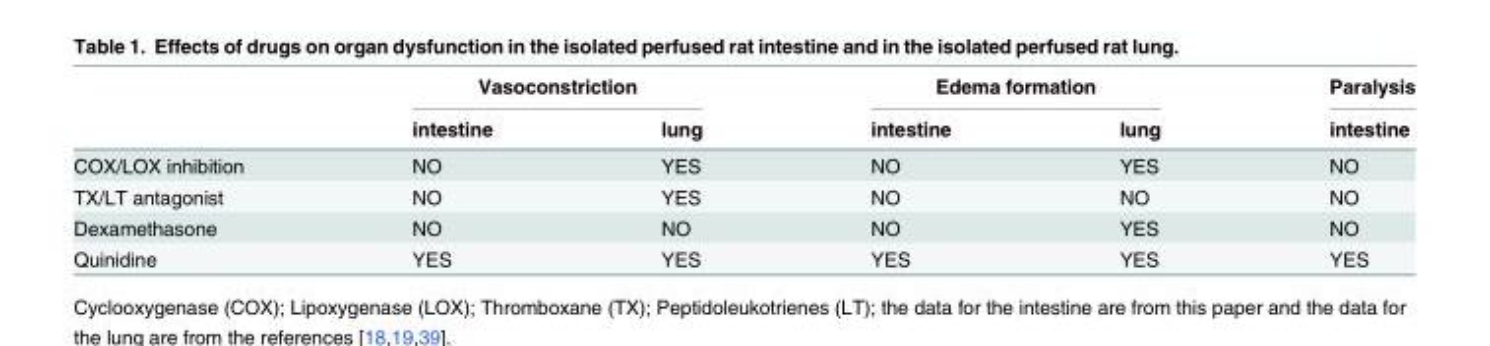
<table><thead><tr><td rowspan="2"></td><td colspan="2">Vasoconstriction</td><td colspan="2">Edema formation</td><td rowspan="2">Paralysis intestine</td></tr><tr><td>intestine</td><td>lung</td><td>intestine</td><td>lung</td></tr></thead><tbody><tr><td>COX/LOX inhibition</td><td>NO</td><td>YES</td><td>NO</td><td>YES</td><td>NO</td></tr><tr><td>TX/LT antagonist</td><td>NO</td><td>YES</td><td>NO</td><td>NO</td><td>NO</td></tr><tr><td>Dexamethasone</td><td>NO</td><td>NO</td><td>NO</td><td>YES</td><td>NO</td></tr><tr><td>Quinidine</td><td>YES</td><td>YES</td><td>YES</td><td>YES</td><td>YES</td></tr></tbody></table>